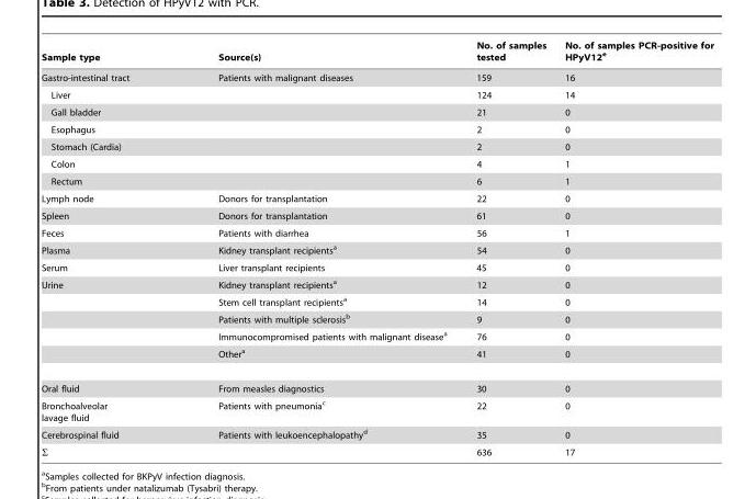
<table><thead><tr><td>Sample type</td><td>Source(s)</td><td>No. of samples tested</td><td>No. of samples PCR-positive for HPyV12<sup>e</sup></td></tr></thead><tbody><tr><td>Gastro-intestinal tract</td><td>Patients with malignant diseases</td><td>159</td><td>16</td></tr><tr><td>Liver</td><td></td><td>124</td><td>14</td></tr><tr><td>Gall bladder</td><td></td><td>21</td><td>0</td></tr><tr><td>Esophagus</td><td></td><td>2</td><td>0</td></tr><tr><td>Stomach (Cardia)</td><td></td><td>2</td><td>0</td></tr><tr><td>Colon</td><td></td><td>4</td><td>1</td></tr><tr><td>Rectum</td><td></td><td>6</td><td>1</td></tr><tr><td>Lymph node</td><td>Donors for transplantation</td><td>22</td><td>0</td></tr><tr><td>Spleen</td><td>Donors for transplantation</td><td>61</td><td>0</td></tr><tr><td>Feces</td><td>Patients with diarrhea</td><td>56</td><td>1</td></tr><tr><td>Plasma</td><td>Kidney transplant recipients<sup>a</sup></td><td>54</td><td>0</td></tr><tr><td>Serum</td><td>Liver transplant recipients</td><td>45</td><td>0</td></tr><tr><td rowspan="5">Urine</td><td>Kidney transplant recipients<sup>a</sup></td><td>12</td><td>0</td></tr><tr><td>Stem cell transplant recipients<sup>a</sup></td><td>14</td><td>0</td></tr><tr><td>Patients with multiple sclerosis<sup>b</sup></td><td>9</td><td>0</td></tr><tr><td>Immunocompromised patients with malignant disease<sup>a</sup></td><td>76</td><td>0</td></tr><tr><td>Other<sup>a</sup></td><td>41</td><td>0</td></tr><tr><td>Oral fluid</td><td>From measles diagnostics</td><td>30</td><td>0</td></tr><tr><td>Bronchoalveolar lavage fluid</td><td>Patients with pneumonia<sup>c</sup></td><td>22</td><td>0</td></tr><tr><td>Cerebrospinal fluid</td><td>Patients with leukoencephalopathy<sup>d</sup></td><td>35</td><td>0</td></tr><tr><td>Σ</td><td></td><td>636</td><td>17</td></tr></tbody></table>